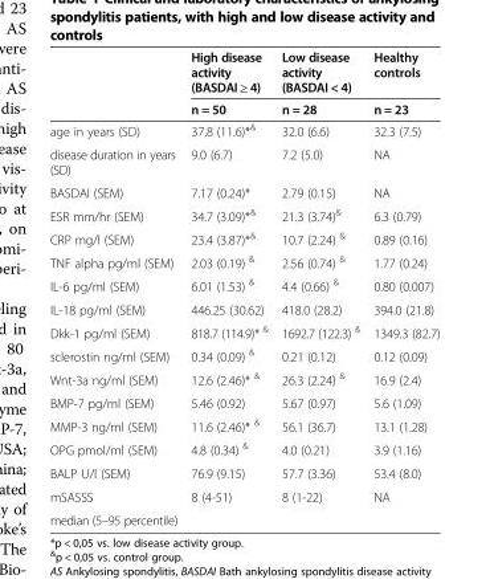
<table><thead><tr><td rowspan="2"></td><td rowspan="2">High disease activity (BASDAI ≥ 4) n = 50</td><td rowspan="2">Low disease activity (BASDAI &lt; 4) n = 28</td><td rowspan="2">Healthy controls n = 23</td></tr><tr></tr></thead><tbody><tr><td>age in years (SD)</td><td>37.8 (11.6)*<sup>&amp;</sup></td><td>32.0 (6.6)</td><td>32.3 (7.5)</td></tr><tr><td>disease duration in years (SD)</td><td>9.0 (6.7)</td><td>7.2 (5.0)</td><td>NA</td></tr><tr><td>BASDAI (SEM)</td><td>7.17 (0.24)*</td><td>2.79 (0.15)</td><td>NA</td></tr><tr><td>ESR mm/hr (SEM)</td><td>34.7 (3.09)*<sup>&amp;</sup></td><td>21.3 (3.74)<sup>&amp;</sup></td><td>6.3 (0.79)</td></tr><tr><td>CRP mg/l (SEM)</td><td>23.4 (3.87)*<sup>&amp;</sup></td><td>10.7 (2.24) <sup>&amp;</sup></td><td>0.89 (0.16)</td></tr><tr><td>TNF alpha pg/ml (SEM)</td><td>2.03 (0.19) <sup>&amp;</sup></td><td>2.56 (0.74) <sup>&amp;</sup></td><td>1.77 (0.24)</td></tr><tr><td>IL-6 pg/ml (SEM)</td><td>6.01 (1.53) <sup>&amp;</sup></td><td>4.4 (0.66) <sup>&amp;</sup></td><td>0.80 (0.007)</td></tr><tr><td>IL-18 pg/ml (SEM)</td><td>446.25 (30.62)</td><td>418.0 (28.2)</td><td>394.0 (21.8)</td></tr><tr><td>Dkk-1 pg/ml (SEM)</td><td>818.7 (114.9)* <sup>&amp;</sup></td><td>1692.7 (122.3) <sup>&amp;</sup></td><td>1349.3 (82.7)</td></tr><tr><td>sclerostin ng/ml (SEM)</td><td>0.34 (0.09) <sup>&amp;</sup></td><td>0.21 (0.12)</td><td>0.12 (0.09)</td></tr><tr><td>Wnt-3a ng/ml (SEM)</td><td>12.6 (2.46)* <sup>&amp;</sup></td><td>26.3 (2.24) <sup>&amp;</sup></td><td>16.9 (2.4)</td></tr><tr><td>BMP-7 pg/ml (SEM)</td><td>5.46 (0.92)</td><td>5.67 (0.97)</td><td>5.6 (1.09)</td></tr><tr><td>MMP-3 ng/ml (SEM)</td><td>11.6 (2.46)* <sup>&amp;</sup></td><td>56.1 (36.7)</td><td>13.1 (1.28)</td></tr><tr><td>OPG pmol/ml (SEM)</td><td>4.8 (0.34) <sup>&amp;</sup></td><td>4.0 (0.21)</td><td>3.9 (1.16)</td></tr><tr><td>BALP U/l (SEM)</td><td>76.9 (9.15)</td><td>57.7 (3.36)</td><td>53.4 (8.0)</td></tr><tr><td>mSASSS</td><td rowspan="2">8 (4-51)</td><td rowspan="2">8 (1-22)</td><td rowspan="2">NA</td></tr><tr><td>median (5–95 percentile)</td></tr></tbody></table>